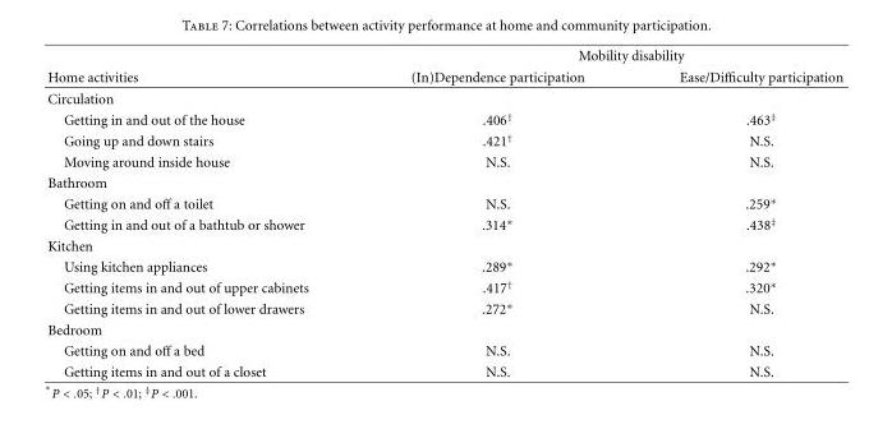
<table><thead><tr><td rowspan="2">Home activities</td><td colspan="2">Mobility disability</td></tr><tr><td>(In)Dependence participation</td><td>Ease/Difficulty participation</td></tr></thead><tbody><tr><td colspan="3">Circulation</td></tr><tr><td>Getting in and out of the house</td><td>.406<sup>†</sup></td><td>.463<sup>‡</sup></td></tr><tr><td>Going up and down stairs</td><td>.421<sup>†</sup></td><td>N.S.</td></tr><tr><td>Moving around inside house</td><td>N.S.</td><td>N.S.</td></tr><tr><td colspan="3">Bathroom</td></tr><tr><td>Getting on and off a toilet</td><td>N.S.</td><td>.259∗</td></tr><tr><td>Getting in and out of a bathtub or shower</td><td>.314∗</td><td>.438<sup>‡</sup></td></tr><tr><td colspan="3">Kitchen</td></tr><tr><td>Using kitchen appliances</td><td>.289∗</td><td>.292∗</td></tr><tr><td>Getting items in and out of upper cabinets</td><td>.417<sup>†</sup></td><td>.320∗</td></tr><tr><td>Getting items in and out of lower drawers</td><td>.272∗</td><td>N.S.</td></tr><tr><td colspan="3">Bedroom</td></tr><tr><td>Getting on and off a bed</td><td>N.S.</td><td>N.S.</td></tr><tr><td>Getting items in and out of a closet</td><td>N.S.</td><td>N.S.</td></tr></tbody></table>